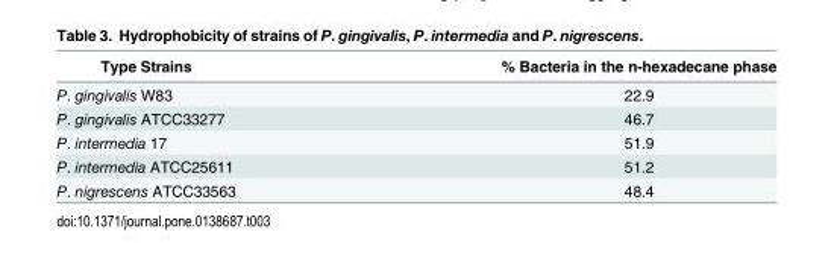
<table><thead><tr><td>Type Strains</td><td>% Bacteria in the n-hexadecane phase</td></tr></thead><tbody><tr><td>P. gingivalis W83</td><td>22.9</td></tr><tr><td>P. gingivalis ATCC33277</td><td>46.7</td></tr><tr><td>P. intermedia 17</td><td>51.9</td></tr><tr><td>P. intermedia ATCC25611</td><td>51.2</td></tr><tr><td>P. nigrescens ATCC33563</td><td>48.4</td></tr></tbody></table>